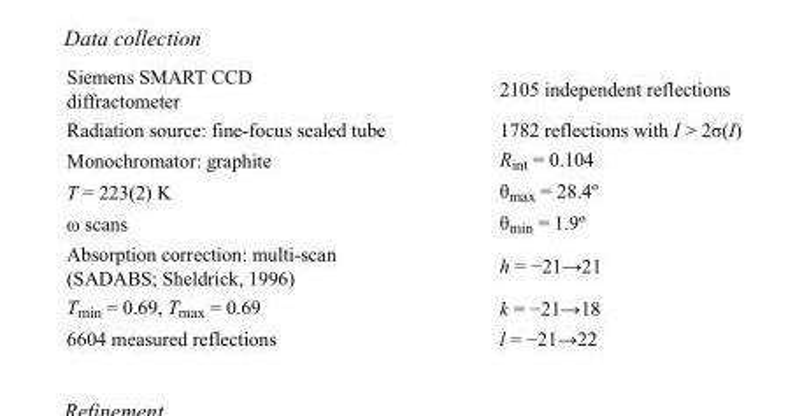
<table><tbody><tr><td>Siemens SMART CCD diffractometer</td><td>2105 independent reflections</td></tr><tr><td>Radiation source: fine-focus sealed tube</td><td>1782 reflections with I &gt; 2σ(I)</td></tr><tr><td>Monochromator: graphite</td><td>R<sub>int</sub> = 0.104</td></tr><tr><td>T = 223(2) K</td><td>θ<sub>max</sub> = 28.4º</td></tr><tr><td>ω scans</td><td>θ<sub>min</sub> = 1.9º</td></tr><tr><td>Absorption correction: multi-scan (SADABS; Sheldrick, 1996)</td><td>h = −21→21</td></tr><tr><td>T<sub>min</sub> = 0.69, T<sub>max</sub> = 0.69</td><td>k = −21→18</td></tr><tr><td>6604 measured reflections</td><td>l = −21→22</td></tr></tbody></table>